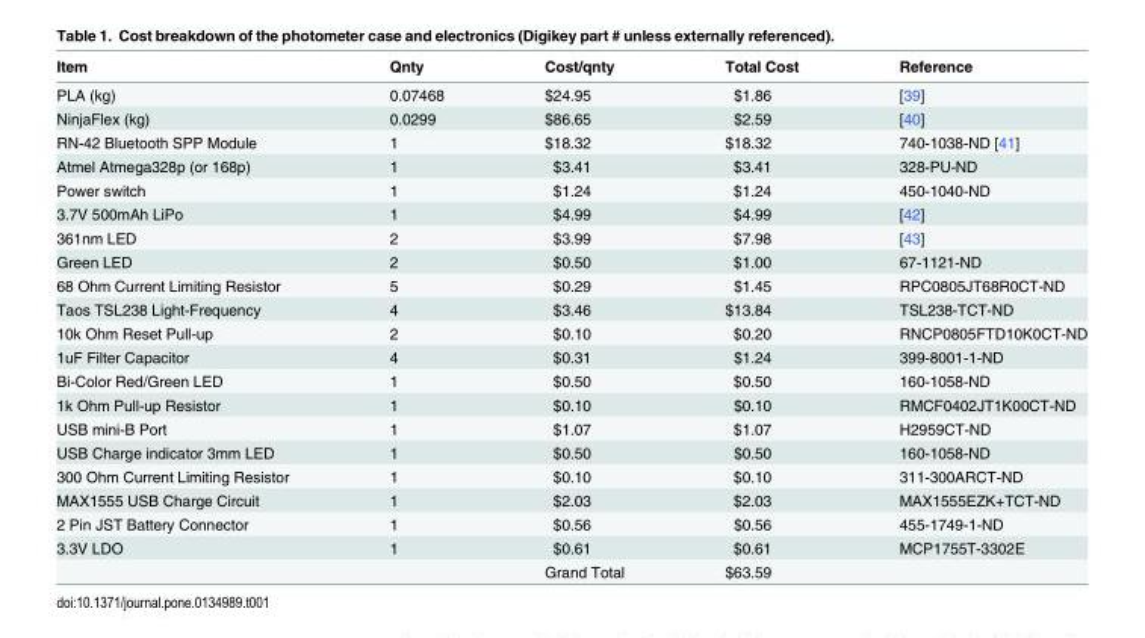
<table><thead><tr><td>Item</td><td>Qnty</td><td>Cost/qnty</td><td>Total Cost</td><td>Reference</td></tr></thead><tbody><tr><td>PLA (kg)</td><td>0.07468</td><td>$24.95</td><td>$1.86</td><td>[39]</td></tr><tr><td>NinjaFlex (kg)</td><td>0.0299</td><td>$86.65</td><td>$2.59</td><td>[40]</td></tr><tr><td>RN-42 Bluetooth SPP Module</td><td>1</td><td>$18.32</td><td>$18.32</td><td>740-1038-ND [41]</td></tr><tr><td>Atmel Atmega328p (or 168p)</td><td>1</td><td>$3.41</td><td>$3.41</td><td>328-PU-ND</td></tr><tr><td>Power switch</td><td>1</td><td>$1.24</td><td>$1.24</td><td>450-1040-ND</td></tr><tr><td>3.7V 500mAh LiPo</td><td>1</td><td>$4.99</td><td>$4.99</td><td>[42]</td></tr><tr><td>361nm LED</td><td>2</td><td>$3.99</td><td>$7.98</td><td>[43]</td></tr><tr><td>Green LED</td><td>2</td><td>$0.50</td><td>$1.00</td><td>67-1121-ND</td></tr><tr><td>68 Ohm Current Limiting Resistor</td><td>5</td><td>$0.29</td><td>$1.45</td><td>RPC0805JT68R0CT-ND</td></tr><tr><td>Taos TSL238 Light-Frequency</td><td>4</td><td>$3.46</td><td>$13.84</td><td>TSL238-TCT-ND</td></tr><tr><td>10k Ohm Reset Pull-up</td><td>2</td><td>$0.10</td><td>$0.20</td><td>RNCP0805FTD10K0CT-ND</td></tr><tr><td>1uF Filter Capacitor</td><td>4</td><td>$0.31</td><td>$1.24</td><td>399-8001-1-ND</td></tr><tr><td>Bi-Color Red/Green LED</td><td>1</td><td>$0.50</td><td>$0.50</td><td>160-1058-ND</td></tr><tr><td>1k Ohm Pull-up Resistor</td><td>1</td><td>$0.10</td><td>$0.10</td><td>RMCF0402JT1K00CT-ND</td></tr><tr><td>USB mini-B Port</td><td>1</td><td>$1.07</td><td>$1.07</td><td>H2959CT-ND</td></tr><tr><td>USB Charge indicator 3mm LED</td><td>1</td><td>$0.50</td><td>$0.50</td><td>160-1058-ND</td></tr><tr><td>300 Ohm Current Limiting Resistor</td><td>1</td><td>$0.10</td><td>$0.10</td><td>311-300ARCT-ND</td></tr><tr><td>MAX1555 USB Charge Circuit</td><td>1</td><td>$2.03</td><td>$2.03</td><td>MAX1555EZK+TCT-ND</td></tr><tr><td>2 Pin JST Battery Connector</td><td>1</td><td>$0.56</td><td>$0.56</td><td>455-1749-1-ND</td></tr><tr><td rowspan="2">3.3V LDO</td><td>1</td><td>$0.61</td><td>$0.61</td><td>MCP1755T-3302E</td></tr><tr><td></td><td>Grand Total</td><td>$63.59</td><td></td></tr></tbody></table>